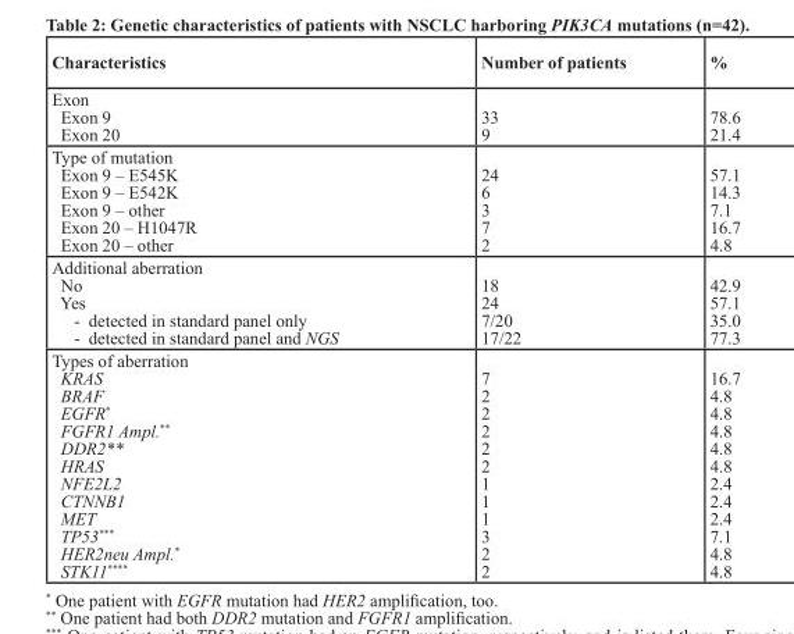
<table><thead><tr><td>Characteristics</td><td>Number of patients</td><td>%</td></tr></thead><tbody><tr><td>Exon Exon 9 Exon 20</td><td>33 9</td><td>78.6 21.4</td></tr><tr><td>Type of mutation Exon 9 – E545K Exon 9 – E542K Exon 9 – other Exon 20 – H1047R Exon 20 – other</td><td>24 6 3 7 2</td><td>57.1 14.3 7.1 16.7 4.8</td></tr><tr><td>Additional aberration No Yes - detected in standard panel only - detected in standard panel and NGS</td><td>18 24 7/20 17/22</td><td>42.9 57.1 35.0 77.3</td></tr><tr><td>Types of aberration KRAS BRAF EGFR* FGFR1 Ampl.** DDR2** HRAS NFE2L2 CTNNB1 MET TP53*** HER2neu Ampl.* STK11****</td><td>7 2 2 2 2 2 1 1 1 3 2 2</td><td>16.7 4.8 4.8 4.8 4.8 4.8 2.4 2.4 2.4 7.1 4.8 4.8</td></tr></tbody></table>